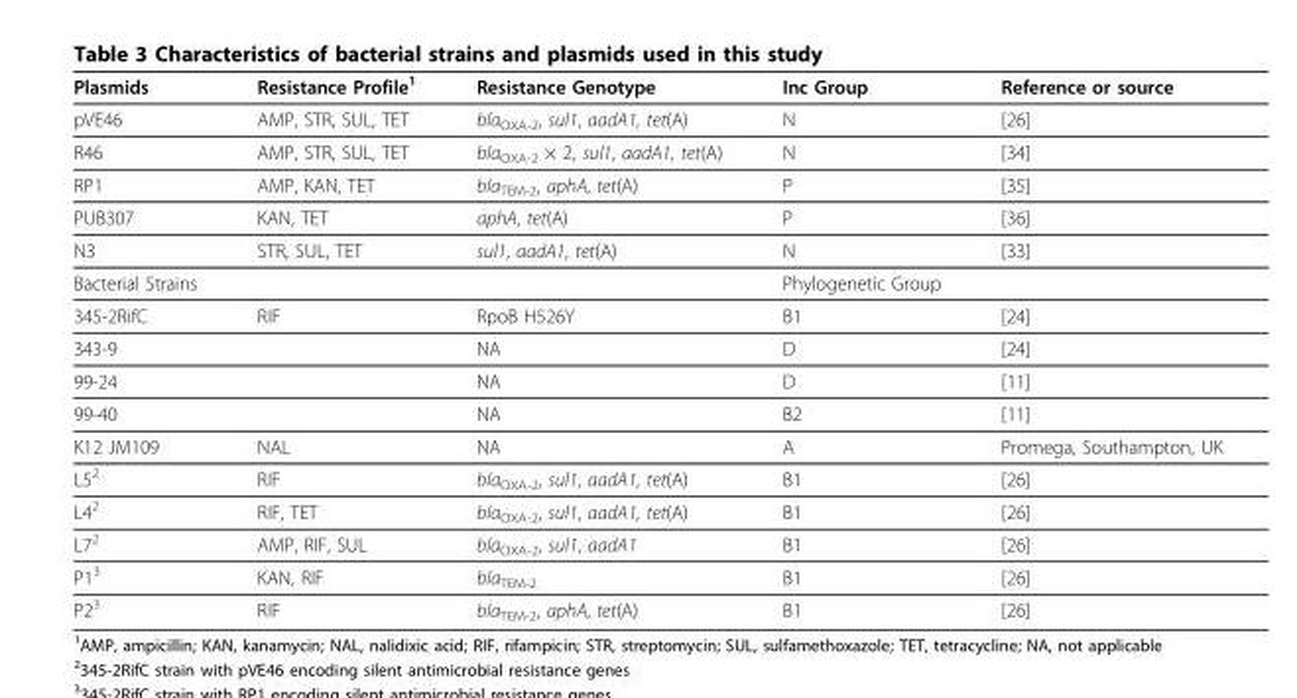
<table><thead><tr><td>Plasmids</td><td>Resistance Profile<sup>1</sup></td><td>Resistance Genotype</td><td>Inc Group</td><td>Reference or source</td></tr></thead><tbody><tr><td>pVE46</td><td>AMP, STR, SUL, TET</td><td>bla<sub>OXA-2</sub>, sul1, aadA1, tet(A)</td><td>N</td><td>[26]</td></tr><tr><td>R46</td><td>AMP, STR, SUL, TET</td><td>bla<sub>OXA-2</sub> × 2, sul1, aadA1, tet(A)</td><td>N</td><td>[34]</td></tr><tr><td>RP1</td><td>AMP, KAN, TET</td><td>bla<sub>TEM-2</sub>, aphA, tet(A)</td><td>P</td><td>[35]</td></tr><tr><td>PUB307</td><td>KAN, TET</td><td>aphA, tet(A)</td><td>P</td><td>[36]</td></tr><tr><td>N3</td><td>STR, SUL, TET</td><td>sul1, aadA1, tet(A)</td><td>N</td><td>[33]</td></tr><tr><td>Bacterial Strains</td><td></td><td></td><td>Phylogenetic Group</td><td></td></tr><tr><td>345-2RifC</td><td>RIF</td><td>RpoB H526Y</td><td>B1</td><td>[24]</td></tr><tr><td>343-9</td><td></td><td>NA</td><td>D</td><td>[24]</td></tr><tr><td>99-24</td><td></td><td>NA</td><td>D</td><td>[11]</td></tr><tr><td>99-40</td><td></td><td>NA</td><td>B2</td><td>[11]</td></tr><tr><td>K12 JM109</td><td>NAL</td><td>NA</td><td>A</td><td>Promega, Southampton, UK</td></tr><tr><td>L5<sup>2</sup></td><td>RIF</td><td>bla<sub>OXA-2</sub>, sul1, aadA1, tet(A)</td><td>B1</td><td>[26]</td></tr><tr><td>L4<sup>2</sup></td><td>RIF, TET</td><td>bla<sub>OXA-2</sub>, sul1, aadA1, tet(A)</td><td>B1</td><td>[26]</td></tr><tr><td>L7<sup>2</sup></td><td>AMP, RIF, SUL</td><td>bla<sub>OXA-2</sub>, sul1, aadA1</td><td>B1</td><td>[26]</td></tr><tr><td>P1<sup>3</sup></td><td>KAN, RIF</td><td>bla<sub>TEM-2</sub></td><td>B1</td><td>[26]</td></tr><tr><td>P2<sup>3</sup></td><td>RIF</td><td>bla<sub>TEM-2</sub>, aphA, tet(A)</td><td>B1</td><td>[26]</td></tr></tbody></table>